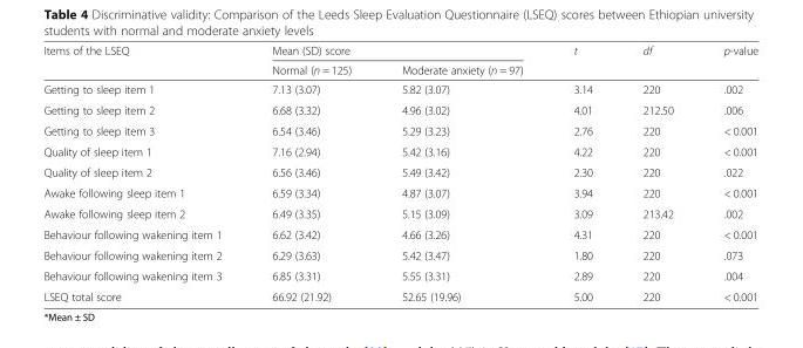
<table><thead><tr><td rowspan="2">Items of the LSEQ</td><td colspan="2">Mean (SD) score</td><td rowspan="2">t</td><td rowspan="2">df</td><td rowspan="2">p-value</td></tr><tr><td>Normal (n = 125)</td><td>Moderate anxiety (n = 97)</td></tr></thead><tbody><tr><td>Getting to sleep item 1</td><td>7.13 (3.07)</td><td>5.82 (3.07)</td><td>3.14</td><td>220</td><td>.002</td></tr><tr><td>Getting to sleep item 2</td><td>6.68 (3.32)</td><td>4.96 (3.02)</td><td>4.01</td><td>212.50</td><td>.006</td></tr><tr><td>Getting to sleep item 3</td><td>6.54 (3.46)</td><td>5.29 (3.23)</td><td>2.76</td><td>220</td><td>&lt; 0.001</td></tr><tr><td>Quality of sleep item 1</td><td>7.16 (2.94)</td><td>5.42 (3.16)</td><td>4.22</td><td>220</td><td>&lt; 0.001</td></tr><tr><td>Quality of sleep item 2</td><td>6.56 (3.46)</td><td>5.49 (3.42)</td><td>2.30</td><td>220</td><td>.022</td></tr><tr><td>Awake following sleep item 1</td><td>6.59 (3.34)</td><td>4.87 (3.07)</td><td>3.94</td><td>220</td><td>&lt; 0.001</td></tr><tr><td>Awake following sleep item 2</td><td>6.49 (3.35)</td><td>5.15 (3.09)</td><td>3.09</td><td>213.42</td><td>.002</td></tr><tr><td>Behaviour following wakening item 1</td><td>6.62 (3.42)</td><td>4.66 (3.26)</td><td>4.31</td><td>220</td><td>&lt; 0.001</td></tr><tr><td>Behaviour following wakening item 2</td><td>6.29 (3.63)</td><td>5.42 (3.47)</td><td>1.80</td><td>220</td><td>.073</td></tr><tr><td>Behaviour following wakening item 3</td><td>6.85 (3.31)</td><td>5.55 (3.31)</td><td>2.89</td><td>220</td><td>.004</td></tr><tr><td>LSEQ total score</td><td>66.92 (21.92)</td><td>52.65 (19.96)</td><td>5.00</td><td>220</td><td>&lt; 0.001</td></tr></tbody></table>